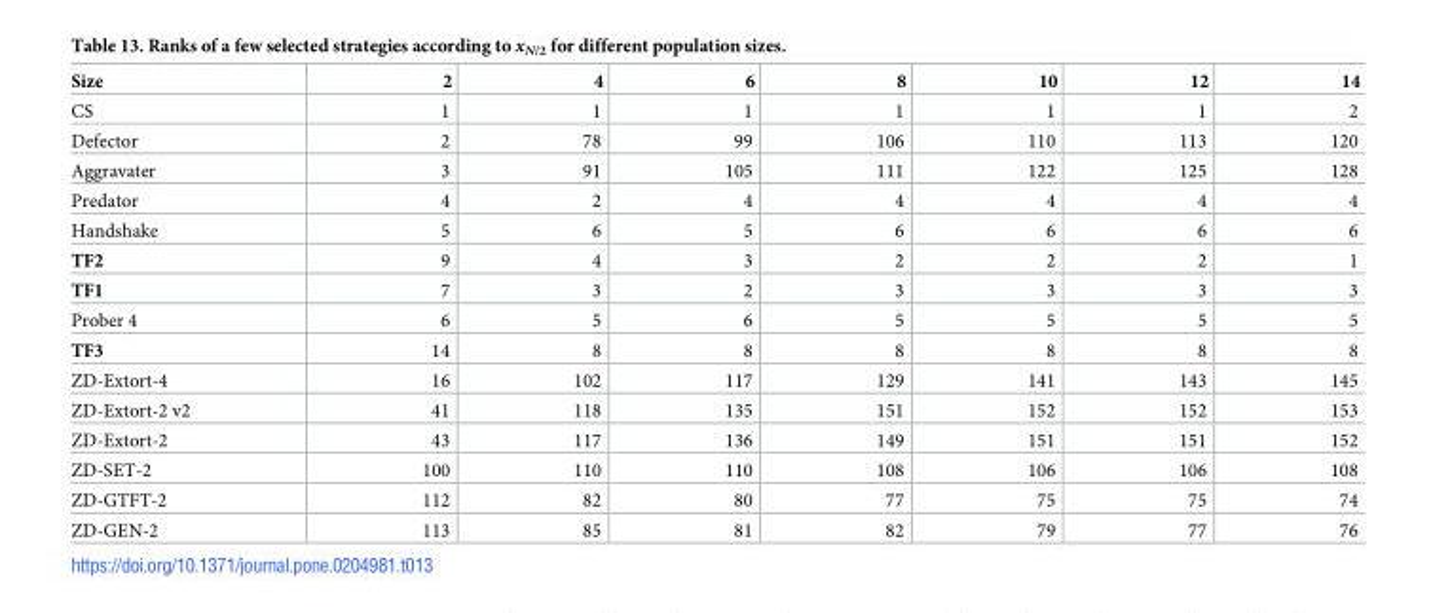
<table><thead><tr><td>Size</td><td>2</td><td>4</td><td>6</td><td>8</td><td>10</td><td>12</td><td>14</td></tr></thead><tbody><tr><td>CS</td><td>1</td><td>1</td><td>1</td><td>1</td><td>1</td><td>1</td><td>2</td></tr><tr><td>Defector</td><td>2</td><td>78</td><td>99</td><td>106</td><td>110</td><td>113</td><td>120</td></tr><tr><td>Aggravater</td><td>3</td><td>91</td><td>105</td><td>111</td><td>122</td><td>125</td><td>128</td></tr><tr><td>Predator</td><td>4</td><td>2</td><td>4</td><td>4</td><td>4</td><td>4</td><td>4</td></tr><tr><td>Handshake</td><td>5</td><td>6</td><td>5</td><td>6</td><td>6</td><td>6</td><td>6</td></tr><tr><td>TF2</td><td>9</td><td>4</td><td>3</td><td>2</td><td>2</td><td>2</td><td>1</td></tr><tr><td>TF1</td><td>7</td><td>3</td><td>2</td><td>3</td><td>3</td><td>3</td><td>3</td></tr><tr><td>Prober 4</td><td>6</td><td>5</td><td>6</td><td>5</td><td>5</td><td>5</td><td>5</td></tr><tr><td>TF3</td><td>14</td><td>8</td><td>8</td><td>8</td><td>8</td><td>8</td><td>8</td></tr><tr><td>ZD-Extort-4</td><td>16</td><td>102</td><td>117</td><td>129</td><td>141</td><td>143</td><td>145</td></tr><tr><td>ZD-Extort-2 v2</td><td>41</td><td>118</td><td>135</td><td>151</td><td>152</td><td>152</td><td>153</td></tr><tr><td>ZD-Extort-2</td><td>43</td><td>117</td><td>136</td><td>149</td><td>151</td><td>151</td><td>152</td></tr><tr><td>ZD-SET-2</td><td>100</td><td>110</td><td>110</td><td>108</td><td>106</td><td>106</td><td>108</td></tr><tr><td>ZD-GTFT-2</td><td>112</td><td>82</td><td>80</td><td>77</td><td>75</td><td>75</td><td>74</td></tr><tr><td>ZD-GEN-2</td><td>113</td><td>85</td><td>81</td><td>82</td><td>79</td><td>77</td><td>76</td></tr></tbody></table>